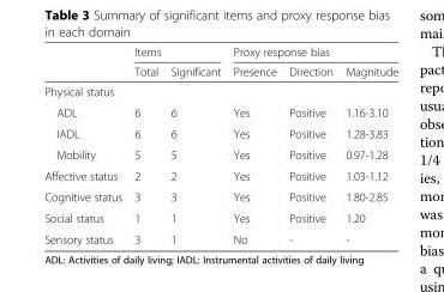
<table><thead><tr><td rowspan="2"></td><td colspan="2">Items</td><td colspan="3">Proxy response bias</td></tr><tr><td>Total</td><td>Significant</td><td>Presence</td><td>Direction</td><td>Magnitude</td></tr></thead><tbody><tr><td colspan="6">Physical status</td></tr><tr><td>ADL</td><td>6</td><td>6</td><td>Yes</td><td>Positive</td><td>1.16-3.10</td></tr><tr><td>IADL</td><td>6</td><td>6</td><td>Yes</td><td>Positive</td><td>1.28-3.83</td></tr><tr><td>Mobility</td><td>5</td><td>5</td><td>Yes</td><td>Positive</td><td>0.97-1.28</td></tr><tr><td>Affective status</td><td>2</td><td>2</td><td>Yes</td><td>Positive</td><td>1.03-1.12</td></tr><tr><td>Cognitive status</td><td>3</td><td>3</td><td>Yes</td><td>Positive</td><td>1.80-2.85</td></tr><tr><td>Social status</td><td>1</td><td>1</td><td>Yes</td><td>Positive</td><td>1.20</td></tr><tr><td>Sensory status</td><td>3</td><td>1</td><td>No</td><td>-</td><td>-</td></tr></tbody></table>